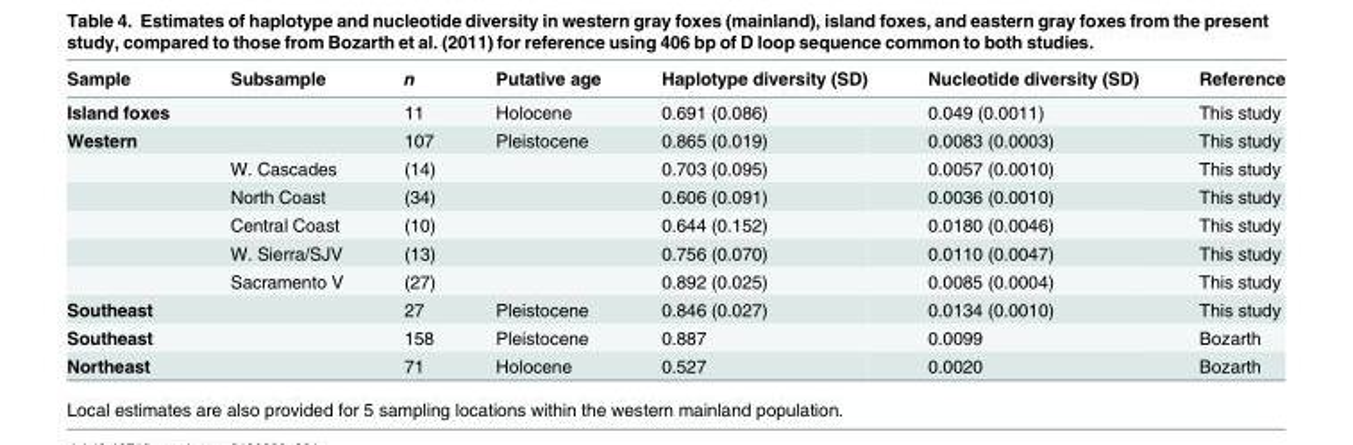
<table><thead><tr><td>Sample</td><td>Subsample</td><td>n</td><td>Putative age</td><td>Haplotype diversity (SD)</td><td>Nucleotide diversity (SD)</td><td>Reference</td></tr></thead><tbody><tr><td>Island foxes</td><td></td><td>11</td><td>Holocene</td><td>0.691 (0.086)</td><td>0.049 (0.0011)</td><td>This study</td></tr><tr><td rowspan="6">Western</td><td></td><td>107</td><td>Pleistocene</td><td>0.865 (0.019)</td><td>0.0083 (0.0003)</td><td>This study</td></tr><tr><td>W. Cascades</td><td>(14)</td><td></td><td>0.703 (0.095)</td><td>0.0057 (0.0010)</td><td>This study</td></tr><tr><td>North Coast</td><td>(34)</td><td></td><td>0.606 (0.091)</td><td>0.0036 (0.0010)</td><td>This study</td></tr><tr><td>Central Coast</td><td>(10)</td><td></td><td>0.644 (0.152)</td><td>0.0180 (0.0046)</td><td>This study</td></tr><tr><td>W. Sierra/SJV</td><td>(13)</td><td></td><td>0.756 (0.070)</td><td>0.0110 (0.0047)</td><td>This study</td></tr><tr><td>Sacramento V</td><td>(27)</td><td></td><td>0.892 (0.025)</td><td>0.0085 (0.0004)</td><td>This study</td></tr><tr><td>Southeast</td><td></td><td>27</td><td>Pleistocene</td><td>0.846 (0.027)</td><td>0.0134 (0.0010)</td><td>This study</td></tr><tr><td>Southeast</td><td></td><td>158</td><td>Pleistocene</td><td>0.887</td><td>0.0099</td><td>Bozarth</td></tr><tr><td>Northeast</td><td></td><td>71</td><td>Holocene</td><td>0.527</td><td>0.0020</td><td>Bozarth</td></tr></tbody></table>